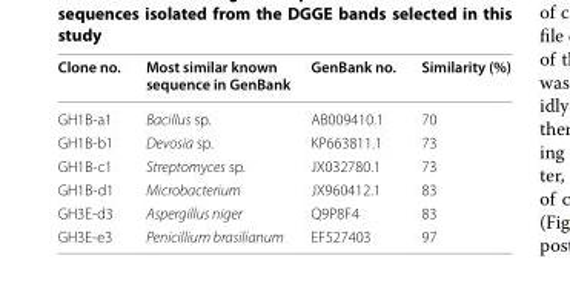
<table><thead><tr><td>Clone no.</td><td>Most similar known sequence in GenBank</td><td>GenBank no.</td><td>Similarity (%)</td></tr></thead><tbody><tr><td>GH1B-a1</td><td>Bacillus sp.</td><td>AB009410.1</td><td>70</td></tr><tr><td>GH1B-b1</td><td>Devosia sp.</td><td>KP663811.1</td><td>73</td></tr><tr><td>GH1B-c1</td><td>Streptomyces sp.</td><td>JX032780.1</td><td>73</td></tr><tr><td>GH1B-d1</td><td>Microbacterium</td><td>JX960412.1</td><td>83</td></tr><tr><td>GH3E-d3</td><td>Aspergillus niger</td><td>Q9P8F4</td><td>83</td></tr><tr><td>GH3E-e3</td><td>Penicillium brasilianum</td><td>EF527403</td><td>97</td></tr></tbody></table>